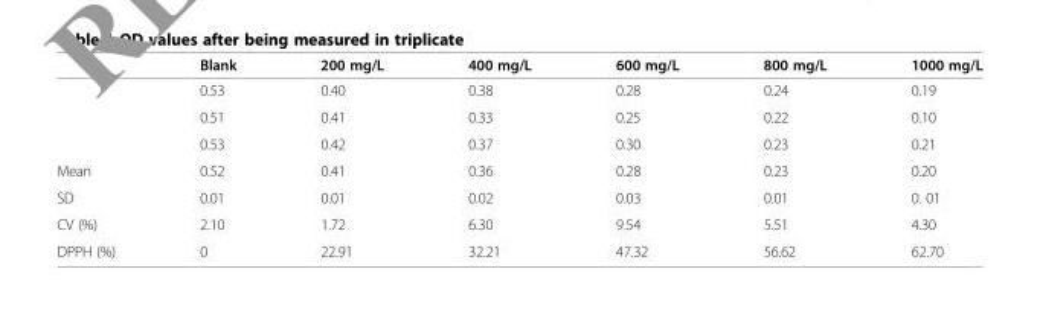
<table><thead><tr><td></td><td>Blank</td><td>200 mg/L</td><td>400 mg/L</td><td>600 mg/L</td><td>800 mg/L</td><td>1000 mg/L</td></tr></thead><tbody><tr><td></td><td>0.53</td><td>0.40</td><td>0.38</td><td>0.28</td><td>0.24</td><td>0.19</td></tr><tr><td></td><td>0.51</td><td>0.41</td><td>0.33</td><td>0.25</td><td>0.22</td><td>0.10</td></tr><tr><td></td><td>0.53</td><td>0.42</td><td>0.37</td><td>0.30</td><td>0.23</td><td>0.21</td></tr><tr><td>Mean</td><td>0.52</td><td>0.41</td><td>0.36</td><td>0.28</td><td>0.23</td><td>0.20</td></tr><tr><td>SD</td><td>0.01</td><td>0.01</td><td>0.02</td><td>0.03</td><td>0.01</td><td>0. 01</td></tr><tr><td>CV (%)</td><td>2.10</td><td>1.72</td><td>6.30</td><td>9.54</td><td>5.51</td><td>4.30</td></tr><tr><td>DPPH (%)</td><td>0</td><td>22.91</td><td>32.21</td><td>47.32</td><td>56.62</td><td>62.70</td></tr></tbody></table>